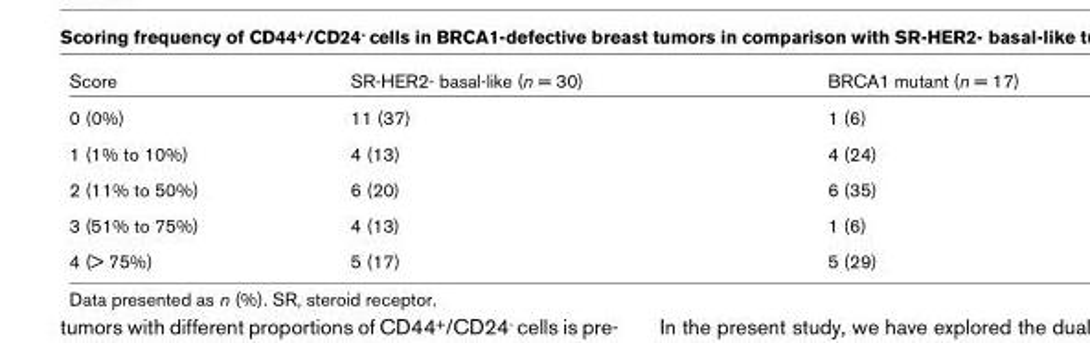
<table><thead><tr><td>Score</td><td>SR-HER2- basal-like (n = 30)</td><td>BRCA1 mutant (n = 17)</td></tr></thead><tbody><tr><td>0 (0%)</td><td>11 (37)</td><td>1 (6)</td></tr><tr><td>1 (1% to 10%)</td><td>4 (13)</td><td>4 (24)</td></tr><tr><td>2 (11% to 50%)</td><td>6 (20)</td><td>6 (35)</td></tr><tr><td>3 (51% to 75%)</td><td>4 (13)</td><td>1 (6)</td></tr><tr><td>4 (&gt; 75%)</td><td>5 (17)</td><td>5 (29)</td></tr></tbody></table>